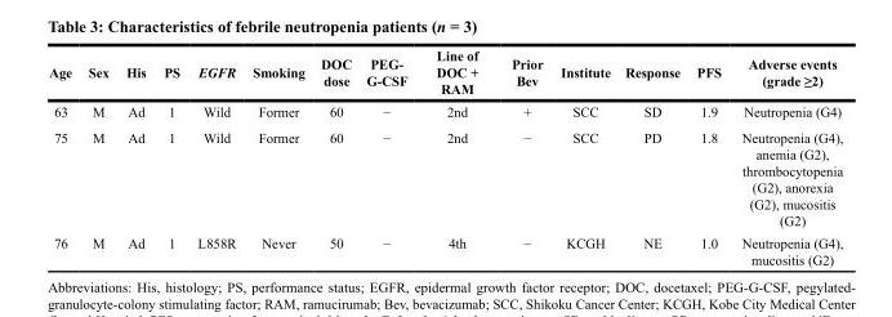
<table><thead><tr><td>Age</td><td>Sex</td><td>His</td><td>PS</td><td>EGFR</td><td>Smoking</td><td>DOC dose</td><td>PEG- G-CSF</td><td>Line of DOC + RAM</td><td>Prior Bev</td><td>Institute</td><td>Response</td><td>PFS</td><td>Adverse events (grade ≥2)</td></tr></thead><tbody><tr><td>63</td><td>M</td><td>Ad</td><td>1</td><td>Wild</td><td>Former</td><td>60</td><td>−</td><td>2nd</td><td>+</td><td>SCC</td><td>SD</td><td>1.9</td><td>Neutropenia (G4)</td></tr><tr><td>75</td><td>M</td><td>Ad</td><td>1</td><td>Wild</td><td>Former</td><td>60</td><td>−</td><td>2nd</td><td>−</td><td>SCC</td><td>PD</td><td>1.8</td><td>Neutropenia (G4), anemia (G2), thrombocytopenia (G2), anorexia (G2), mucositis (G2)</td></tr><tr><td>76</td><td>M</td><td>Ad</td><td>1</td><td>L858R</td><td>Never</td><td>50</td><td>−</td><td>4th</td><td>−</td><td>KCGH</td><td>NE</td><td>1.0</td><td>Neutropenia (G4), mucositis (G2)</td></tr></tbody></table>